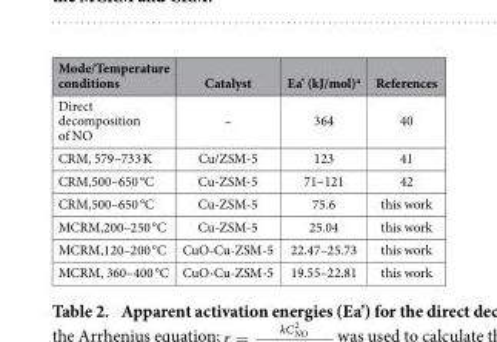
<table><thead><tr><td>Mode/Temperature conditions</td><td>Catalyst</td><td>Ea’ (kJ/mol)<sup>a</sup></td><td>References</td></tr></thead><tbody><tr><td>Direct decomposition of NO</td><td>–</td><td>364</td><td>40</td></tr><tr><td>CRM, 579–733 K</td><td>Cu/ZSM-5</td><td>123</td><td>41</td></tr><tr><td>CRM,500–650 °C</td><td>Cu-ZSM-5</td><td>71–121</td><td>42</td></tr><tr><td>CRM,500–650 °C</td><td>Cu-ZSM-5</td><td>75.6</td><td>this work</td></tr><tr><td>MCRM,200–250 °C</td><td>Cu-ZSM-5</td><td>25.04</td><td>this work</td></tr><tr><td>MCRM,120–200 °C</td><td>CuO-Cu-ZSM-5</td><td>22.47–25.73</td><td>this work</td></tr><tr><td>MCRM, 360–400 °C</td><td>CuO-Cu-ZSM-5</td><td>19.55–22.81</td><td>this work</td></tr></tbody></table>